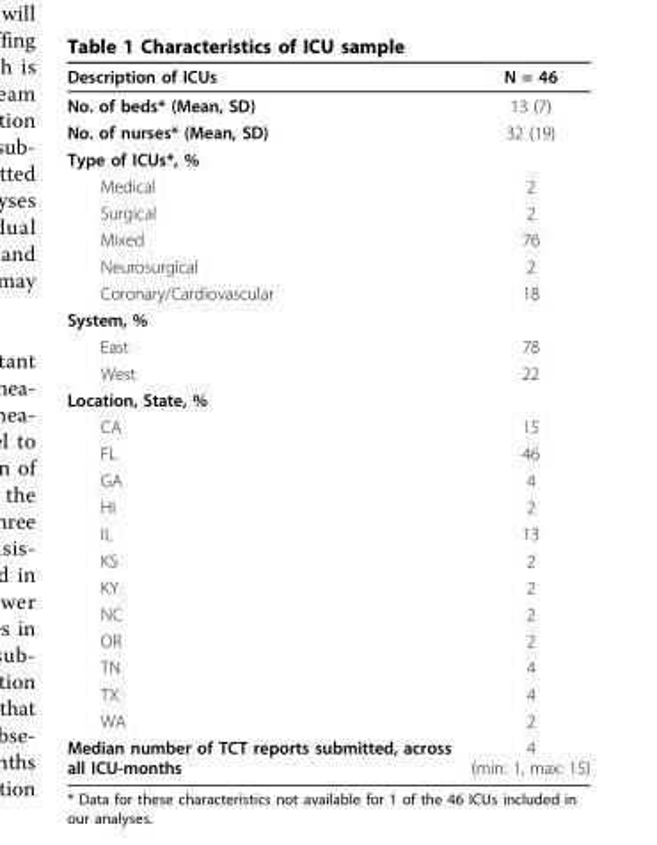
<table><thead><tr><td>Description of ICUs</td><td>N = 46</td></tr></thead><tbody><tr><td>No. of beds* (Mean, SD)</td><td>13 (7)</td></tr><tr><td>No. of nurses* (Mean, SD)</td><td>32 (19)</td></tr><tr><td colspan="2">Type of ICUs*, %</td></tr><tr><td>Medical</td><td>2</td></tr><tr><td>Surgical</td><td>2</td></tr><tr><td>Mixed</td><td>76</td></tr><tr><td>Neurosurgical</td><td>2</td></tr><tr><td>Coronary/Cardiovascular</td><td>18</td></tr><tr><td colspan="2">System, %</td></tr><tr><td>East</td><td>78</td></tr><tr><td>West</td><td>22</td></tr><tr><td colspan="2">Location, State, %</td></tr><tr><td>CA</td><td>15</td></tr><tr><td>FL</td><td>46</td></tr><tr><td>GA</td><td>4</td></tr><tr><td>HI</td><td>2</td></tr><tr><td>IL</td><td>13</td></tr><tr><td>KS</td><td>2</td></tr><tr><td>KY</td><td>2</td></tr><tr><td>NC</td><td>2</td></tr><tr><td>OR</td><td>2</td></tr><tr><td>TN</td><td>4</td></tr><tr><td>TX</td><td>4</td></tr><tr><td>WA</td><td>2</td></tr><tr><td>Median number of TCT reports submitted, across all ICU-months</td><td>4 (min: 1, max: 15)</td></tr></tbody></table>